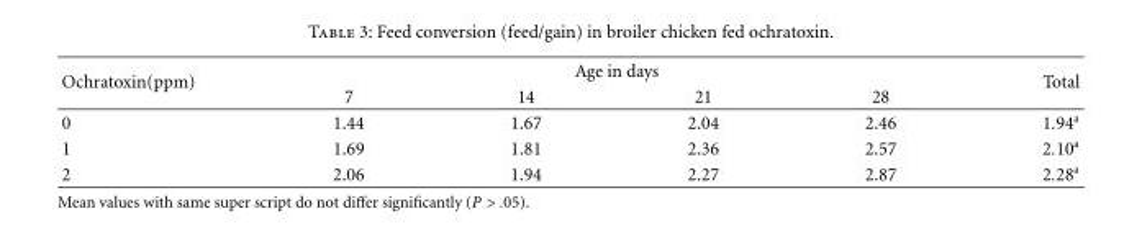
<table><thead><tr><td rowspan="2">Ochratoxin(ppm)</td><td colspan="4">Age in days</td><td rowspan="2">Total</td></tr><tr><td>7</td><td>14</td><td>21</td><td>28</td></tr></thead><tbody><tr><td>0</td><td>1.44</td><td>1.67</td><td>2.04</td><td>2.46</td><td>1.94<sup>a</sup></td></tr><tr><td>1</td><td>1.69</td><td>1.81</td><td>2.36</td><td>2.57</td><td>2.10<sup>a</sup></td></tr><tr><td>2</td><td>2.06</td><td>1.94</td><td>2.27</td><td>2.87</td><td>2.28<sup>a</sup></td></tr></tbody></table>